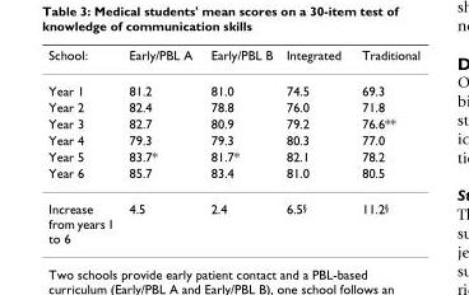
<table><thead><tr><td>School:</td><td>Early/PBL A</td><td>Early/PBL B</td><td>Integrated</td><td>Traditional</td></tr></thead><tbody><tr><td>Year 1</td><td>81.2</td><td>81.0</td><td>74.5</td><td>69.3</td></tr><tr><td>Year 2</td><td>82.4</td><td>78.8</td><td>76.0</td><td>71.8</td></tr><tr><td>Year 3</td><td>82.7</td><td>80.9</td><td>79.2</td><td>76.6**</td></tr><tr><td>Year 4</td><td>79.3</td><td>79.3</td><td>80.3</td><td>77.0</td></tr><tr><td>Year 5</td><td>83.7*</td><td>81.7*</td><td>82.1</td><td>78.2</td></tr><tr><td>Year 6</td><td>85.7</td><td>83.4</td><td>81.0</td><td>80.5</td></tr><tr><td>Increase from years 1 to 6</td><td>4.5</td><td>2.4</td><td>6.5<sup>§</sup></td><td>11.2<sup>§</sup></td></tr></tbody></table>